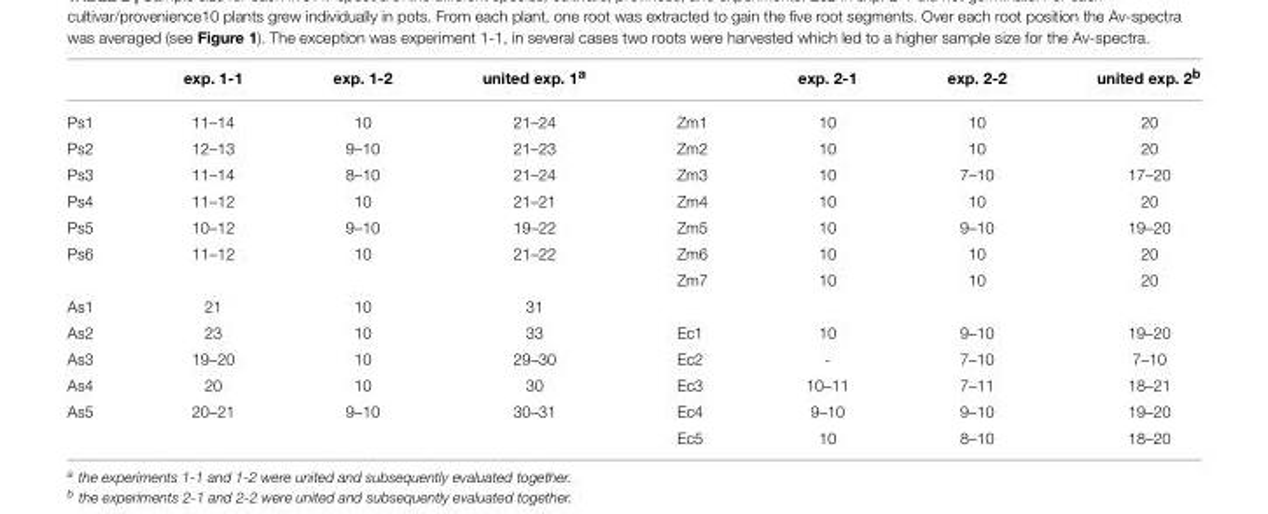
<table><thead><tr><td></td><td>exp. 1-1</td><td>exp. 1-2</td><td>united exp. 1<sup>a</sup></td><td></td><td>exp. 2-1</td><td>exp. 2-2</td><td>united exp. 2<sup>b</sup></td></tr></thead><tbody><tr><td>Ps1</td><td>11–14</td><td>10</td><td>21–24</td><td>Zm1</td><td>10</td><td>10</td><td>20</td></tr><tr><td>Ps2</td><td>12–13</td><td>9–10</td><td>21–23</td><td>Zm2</td><td>10</td><td>10</td><td>20</td></tr><tr><td>Ps3</td><td>11–14</td><td>8–10</td><td>21–24</td><td>Zm3</td><td>10</td><td>7–10</td><td>17–20</td></tr><tr><td>Ps4</td><td>11–12</td><td>10</td><td>21–21</td><td>Zm4</td><td>10</td><td>10</td><td>20</td></tr><tr><td>Ps5</td><td>10–12</td><td>9–10</td><td>19–22</td><td>Zm5</td><td>10</td><td>9–10</td><td>19–20</td></tr><tr><td rowspan="2">Ps6</td><td>11–12</td><td>10</td><td>21–22</td><td>Zm6</td><td>10</td><td>10</td><td>20</td></tr><tr><td></td><td></td><td></td><td>Zm7</td><td>10</td><td>10</td><td>20</td></tr><tr><td>As1</td><td>21</td><td>10</td><td>31</td><td></td><td></td><td></td><td></td></tr><tr><td>As2</td><td>23</td><td>10</td><td>33</td><td>Ec1</td><td>10</td><td>9–10</td><td>19–20</td></tr><tr><td>As3</td><td>19–20</td><td>10</td><td>29–30</td><td>Ec2</td><td>-</td><td>7–10</td><td>7–10</td></tr><tr><td>As4</td><td>20</td><td>10</td><td>30</td><td>Ec3</td><td>10–11</td><td>7–11</td><td>18–21</td></tr><tr><td rowspan="2">As5</td><td>20–21</td><td>9–10</td><td>30–31</td><td>Ec4</td><td>9–10</td><td>9–10</td><td>19–20</td></tr><tr><td></td><td></td><td></td><td>Ec5</td><td>10</td><td>8–10</td><td>18–20</td></tr></tbody></table>